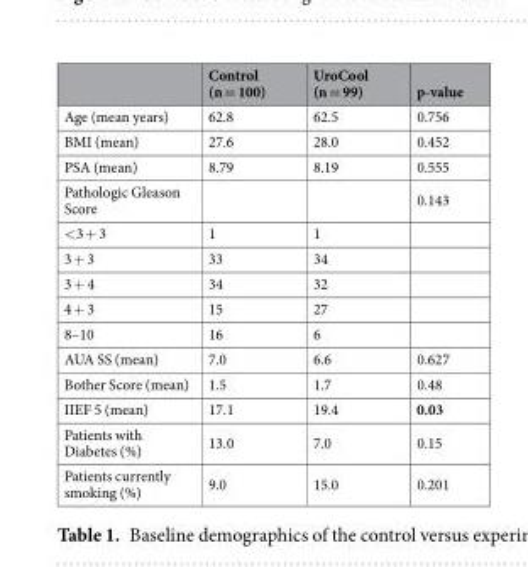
<table><thead><tr><td></td><td>Control (n = 100)</td><td>UroCool (n = 99)</td><td>p-value</td></tr></thead><tbody><tr><td>Age (mean years)</td><td>62.8</td><td>62.5</td><td>0.756</td></tr><tr><td>BMI (mean)</td><td>27.6</td><td>28.0</td><td>0.452</td></tr><tr><td>PSA (mean)</td><td>8.79</td><td>8.19</td><td>0.555</td></tr><tr><td>Pathologic Gleason Score</td><td></td><td></td><td>0.143</td></tr><tr><td>&lt;3 + 3</td><td>1</td><td>1</td><td></td></tr><tr><td>3 + 3</td><td>33</td><td>34</td><td></td></tr><tr><td>3 + 4</td><td>34</td><td>32</td><td></td></tr><tr><td>4 + 3</td><td>15</td><td>27</td><td></td></tr><tr><td>8–10</td><td>16</td><td>6</td><td></td></tr><tr><td>AUA SS (mean)</td><td>7.0</td><td>6.6</td><td>0.627</td></tr><tr><td>Bother Score (mean)</td><td>1.5</td><td>1.7</td><td>0.48</td></tr><tr><td>IIEF 5 (mean)</td><td>17.1</td><td>19.4</td><td>0.03</td></tr><tr><td>Patients with Diabetes (%)</td><td>13.0</td><td>7.0</td><td>0.15</td></tr><tr><td>Patients currently smoking (%)</td><td>9.0</td><td>15.0</td><td>0.201</td></tr></tbody></table>